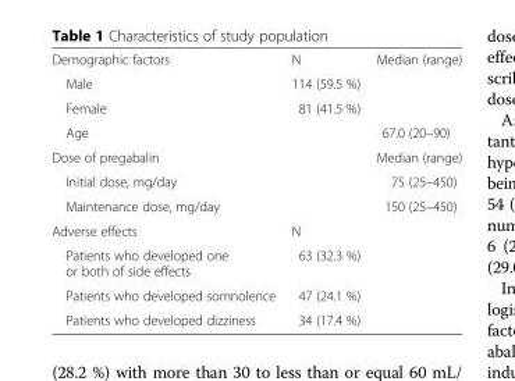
<table><tbody><tr><td>Demographic factors</td><td>N</td><td>Median (range)</td></tr><tr><td>Male</td><td>114 (59.5 %)</td><td></td></tr><tr><td>Female</td><td>81 (41.5 %)</td><td></td></tr><tr><td>Age</td><td></td><td>67.0 (20–90)</td></tr><tr><td>Dose of pregabalin</td><td></td><td>Median (range)</td></tr><tr><td>Initial dose, mg/day</td><td></td><td>75 (25–450)</td></tr><tr><td>Maintenance dose, mg/day</td><td></td><td>150 (25–450)</td></tr><tr><td>Adverse effects</td><td colspan="2">N</td></tr><tr><td>Patients who developed one or both of side effects</td><td colspan="2">63 (32.3 %)</td></tr><tr><td>Patients who developed somnolence</td><td colspan="2">47 (24.1 %)</td></tr><tr><td>Patients who developed dizziness</td><td colspan="2">34 (17.4 %)</td></tr></tbody></table>